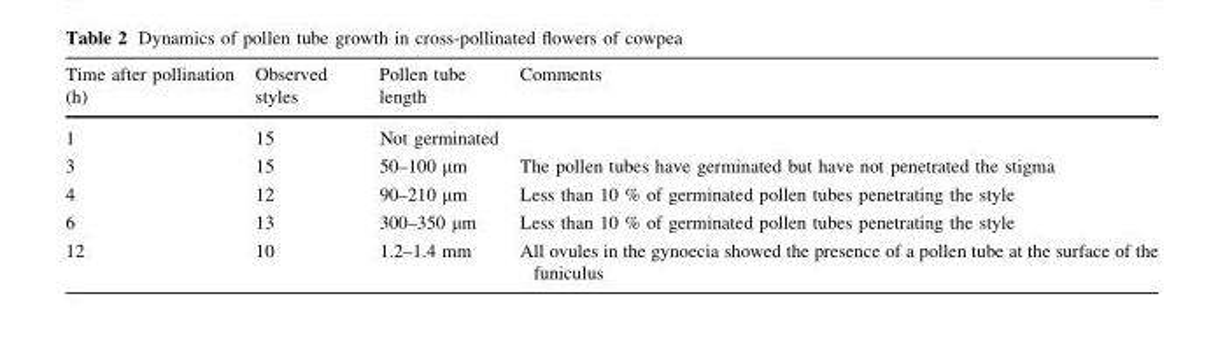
<table><thead><tr><td>Time after pollination (h)</td><td>Observed styles</td><td>Pollen tube length</td><td>Comments</td></tr></thead><tbody><tr><td>1</td><td>15</td><td>Not germinated</td><td></td></tr><tr><td>3</td><td>15</td><td>50–100 μm</td><td>The pollen tubes have germinated but have not penetrated the stigma</td></tr><tr><td>4</td><td>12</td><td>90–210 μm</td><td>Less than 10 % of germinated pollen tubes penetrating the style</td></tr><tr><td>6</td><td>13</td><td>300–350 μm</td><td>Less than 10 % of germinated pollen tubes penetrating the style</td></tr><tr><td>12</td><td>10</td><td>1.2–1.4 mm</td><td>All ovules in the gynoecia showed the presence of a pollen tube at the surface of the funiculus</td></tr></tbody></table>